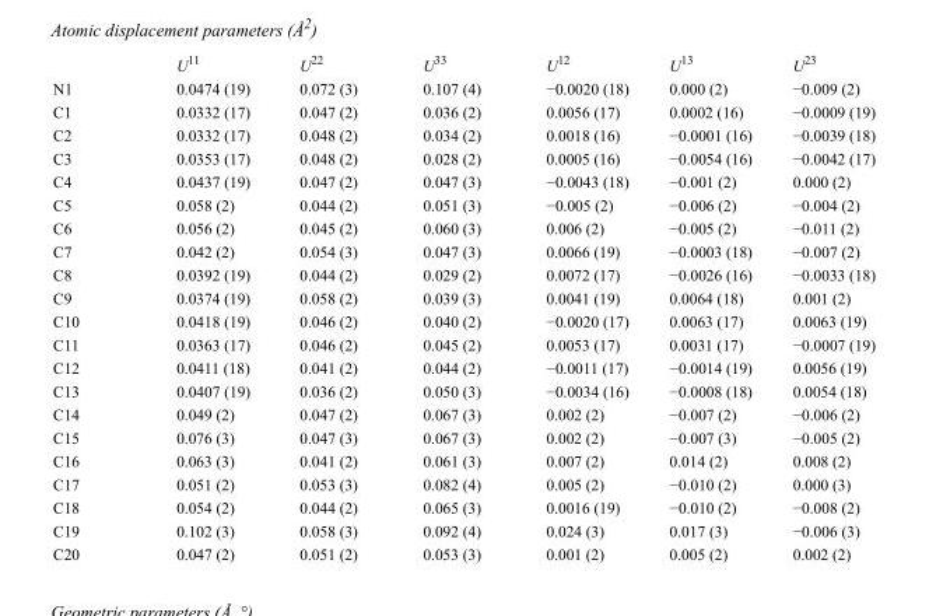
<table><thead><tr><td></td><td>U<sup>11</sup></td><td>U<sup>22</sup></td><td>U<sup>33</sup></td><td>U<sup>12</sup></td><td>U<sup>13</sup></td><td>U<sup>23</sup></td></tr></thead><tbody><tr><td>N1</td><td>0.0474 (19)</td><td>0.072 (3)</td><td>0.107 (4)</td><td>−0.0020 (18)</td><td>0.000 (2)</td><td>−0.009 (2)</td></tr><tr><td>C1</td><td>0.0332 (17)</td><td>0.047 (2)</td><td>0.036 (2)</td><td>0.0056 (17)</td><td>0.0002 (16)</td><td>−0.0009 (19)</td></tr><tr><td>C2</td><td>0.0332 (17)</td><td>0.048 (2)</td><td>0.034 (2)</td><td>0.0018 (16)</td><td>−0.0001 (16)</td><td>−0.0039 (18)</td></tr><tr><td>C3</td><td>0.0353 (17)</td><td>0.048 (2)</td><td>0.028 (2)</td><td>0.0005 (16)</td><td>−0.0054 (16)</td><td>−0.0042 (17)</td></tr><tr><td>C4</td><td>0.0437 (19)</td><td>0.047 (2)</td><td>0.047 (3)</td><td>−0.0043 (18)</td><td>−0.001 (2)</td><td>0.000 (2)</td></tr><tr><td>C5</td><td>0.058 (2)</td><td>0.044 (2)</td><td>0.051 (3)</td><td>−0.005 (2)</td><td>−0.006 (2)</td><td>−0.004 (2)</td></tr><tr><td>C6</td><td>0.056 (2)</td><td>0.045 (2)</td><td>0.060 (3)</td><td>0.006 (2)</td><td>−0.005 (2)</td><td>−0.011 (2)</td></tr><tr><td>C7</td><td>0.042 (2)</td><td>0.054 (3)</td><td>0.047 (3)</td><td>0.0066 (19)</td><td>−0.0003 (18)</td><td>−0.007 (2)</td></tr><tr><td>C8</td><td>0.0392 (19)</td><td>0.044 (2)</td><td>0.029 (2)</td><td>0.0072 (17)</td><td>−0.0026 (16)</td><td>−0.0033 (18)</td></tr><tr><td>C9</td><td>0.0374 (19)</td><td>0.058 (2)</td><td>0.039 (3)</td><td>0.0041 (19)</td><td>0.0064 (18)</td><td>0.001 (2)</td></tr><tr><td>C10</td><td>0.0418 (19)</td><td>0.046 (2)</td><td>0.040 (2)</td><td>−0.0020 (17)</td><td>0.0063 (17)</td><td>0.0063 (19)</td></tr><tr><td>C11</td><td>0.0363 (17)</td><td>0.046 (2)</td><td>0.045 (2)</td><td>0.0053 (17)</td><td>0.0031 (17)</td><td>−0.0007 (19)</td></tr><tr><td>C12</td><td>0.0411 (18)</td><td>0.041 (2)</td><td>0.044 (2)</td><td>−0.0011 (17)</td><td>−0.0014 (19)</td><td>0.0056 (19)</td></tr><tr><td>C13</td><td>0.0407 (19)</td><td>0.036 (2)</td><td>0.050 (3)</td><td>−0.0034 (16)</td><td>−0.0008 (18)</td><td>0.0054 (18)</td></tr><tr><td>C14</td><td>0.049 (2)</td><td>0.047 (2)</td><td>0.067 (3)</td><td>0.002 (2)</td><td>−0.007 (2)</td><td>−0.006 (2)</td></tr><tr><td>C15</td><td>0.076 (3)</td><td>0.047 (3)</td><td>0.067 (3)</td><td>0.002 (2)</td><td>−0.007 (3)</td><td>−0.005 (2)</td></tr><tr><td>C16</td><td>0.063 (3)</td><td>0.041 (2)</td><td>0.061 (3)</td><td>0.007 (2)</td><td>0.014 (2)</td><td>0.008 (2)</td></tr><tr><td>C17</td><td>0.051 (2)</td><td>0.053 (3)</td><td>0.082 (4)</td><td>0.005 (2)</td><td>−0.010 (2)</td><td>0.000 (3)</td></tr><tr><td>C18</td><td>0.054 (2)</td><td>0.044 (2)</td><td>0.065 (3)</td><td>0.0016 (19)</td><td>−0.010 (2)</td><td>−0.008 (2)</td></tr><tr><td>C19</td><td>0.102 (3)</td><td>0.058 (3)</td><td>0.092 (4)</td><td>0.024 (3)</td><td>0.017 (3)</td><td>−0.006 (3)</td></tr><tr><td>C20</td><td>0.047 (2)</td><td>0.051 (2)</td><td>0.053 (3)</td><td>0.001 (2)</td><td>0.005 (2)</td><td>0.002 (2)</td></tr></tbody></table>